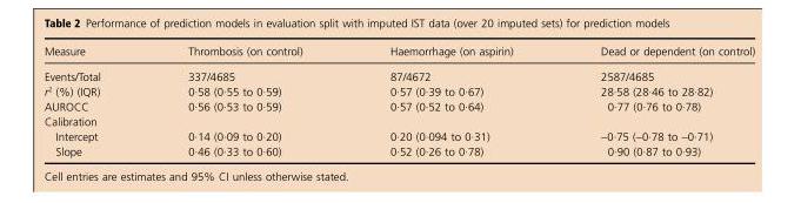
<table><thead><tr><td>Measure</td><td>Thrombosis (on control)</td><td>Haemorrhage (on aspirin)</td><td>Dead or dependent (on control)</td></tr></thead><tbody><tr><td>Events/Total</td><td>337/4685</td><td>87/4672</td><td>2587/4685</td></tr><tr><td>r<sup>2</sup> (%) (IQR)</td><td>0·58 (0·55 to 0·59)</td><td>0·57 (0·39 to 0·67)</td><td>28·58 (28·46 to 28·82)</td></tr><tr><td>AUROCC</td><td>0·56 (0·53 to 0·59)</td><td>0·57 (0·52 to 0·64)</td><td>0·77 (0·76 to 0·78)</td></tr><tr><td colspan="4">Calibration</td></tr><tr><td>Intercept</td><td>0·14 (0·09 to 0·20)</td><td>0·20 (0·094 to 0·31)</td><td>−0·75 (−0·78 to −0·71)</td></tr><tr><td>Slope</td><td>0·46 (0·33 to 0·60)</td><td>0·52 (0·26 to 0·78)</td><td>0·90 (0·87 to 0·93)</td></tr></tbody></table>